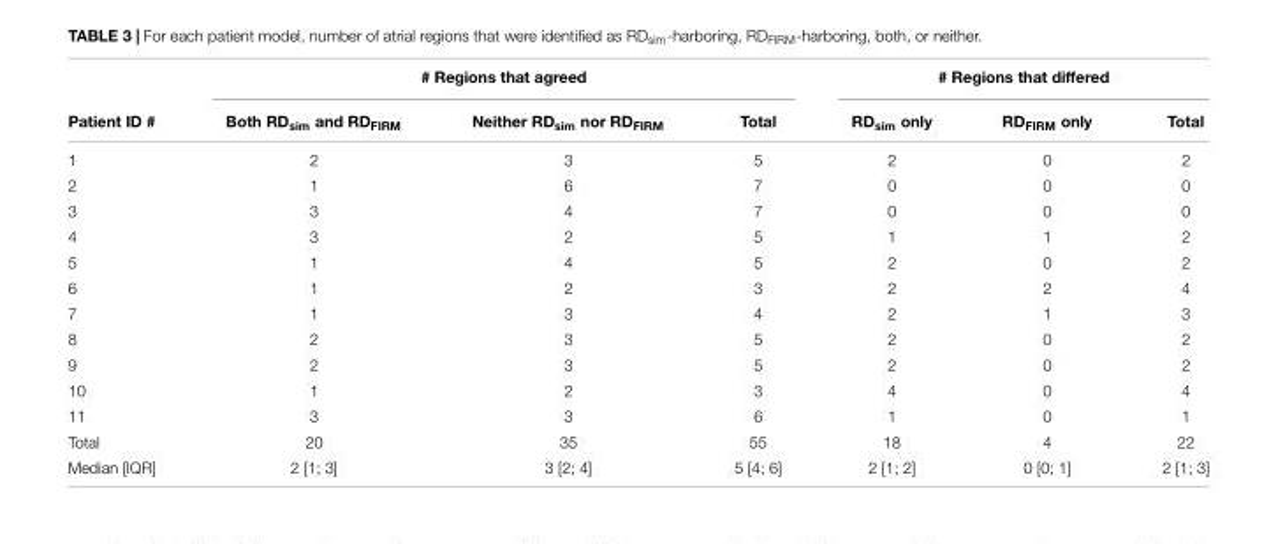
<table><thead><tr><td rowspan="2">Patient ID #</td><td colspan="3"># Regions that agreed</td><td colspan="3"># Regions that differed</td></tr><tr><td>Both RD<sub>sim</sub> and RD<sub>FIRM</sub></td><td>Neither RD<sub>sim</sub> nor RD<sub>FIRM</sub></td><td>Total</td><td>RD<sub>sim</sub> only</td><td>RD<sub>FIRM</sub> only</td><td>Total</td></tr></thead><tbody><tr><td>1</td><td>2</td><td>3</td><td>5</td><td>2</td><td>0</td><td>2</td></tr><tr><td>2</td><td>1</td><td>6</td><td>7</td><td>0</td><td>0</td><td>0</td></tr><tr><td>3</td><td>3</td><td>4</td><td>7</td><td>0</td><td>0</td><td>0</td></tr><tr><td>4</td><td>3</td><td>2</td><td>5</td><td>1</td><td>1</td><td>2</td></tr><tr><td>5</td><td>1</td><td>4</td><td>5</td><td>2</td><td>0</td><td>2</td></tr><tr><td>6</td><td>1</td><td>2</td><td>3</td><td>2</td><td>2</td><td>4</td></tr><tr><td>7</td><td>1</td><td>3</td><td>4</td><td>2</td><td>1</td><td>3</td></tr><tr><td>8</td><td>2</td><td>3</td><td>5</td><td>2</td><td>0</td><td>2</td></tr><tr><td>9</td><td>2</td><td>3</td><td>5</td><td>2</td><td>0</td><td>2</td></tr><tr><td>10</td><td>1</td><td>2</td><td>3</td><td>4</td><td>0</td><td>4</td></tr><tr><td>11</td><td>3</td><td>3</td><td>6</td><td>1</td><td>0</td><td>1</td></tr><tr><td>Total</td><td>20</td><td>35</td><td>55</td><td>18</td><td>4</td><td>22</td></tr><tr><td>Median [IQR]</td><td>2 [1; 3]</td><td>3 [2; 4]</td><td>5 [4; 6]</td><td>2 [1; 2]</td><td>0 [0; 1]</td><td>2 [1; 3]</td></tr></tbody></table>